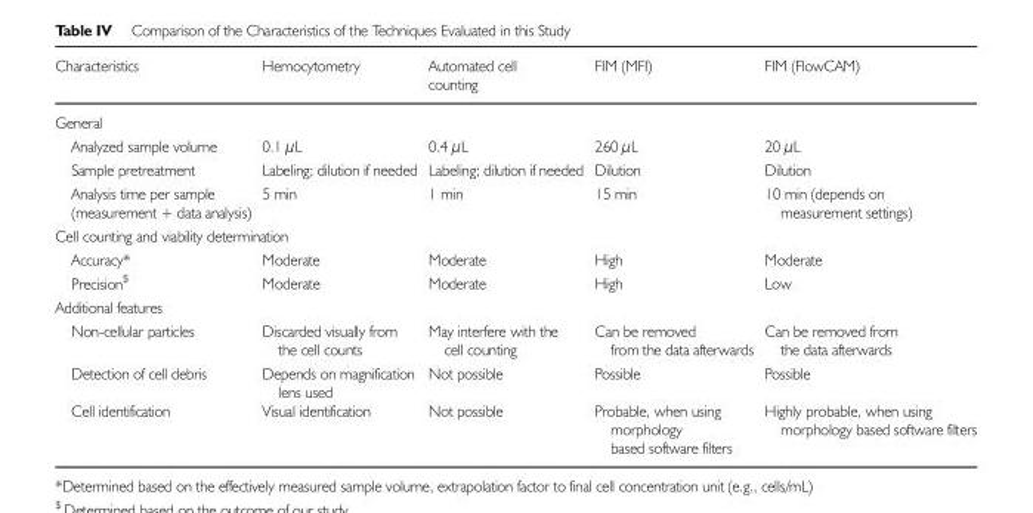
<table><thead><tr><td>Characteristics</td><td>Hemocytometry</td><td>Automated cell counting</td><td>FIM (MFI)</td><td>FIM (FlowCAM)</td></tr></thead><tbody><tr><td colspan="5">General</td></tr><tr><td>Analyzed sample volume</td><td>0.1 μL</td><td>0.4 μL</td><td>260 μL</td><td>20 μL</td></tr><tr><td>Sample pretreatment</td><td>Labeling; dilution if needed</td><td>Labeling; dilution if needed</td><td>Dilution</td><td>Dilution</td></tr><tr><td>Analysis time per sample (measurement + data analysis)</td><td>5 min</td><td>1 min</td><td>15 min</td><td>10 min (depends on measurement settings)</td></tr><tr><td colspan="5">Cell counting and viability determination</td></tr><tr><td>Accuracy*</td><td>Moderate</td><td>Moderate</td><td>High</td><td>Moderate</td></tr><tr><td>Precision<sup>$</sup></td><td>Moderate</td><td>Moderate</td><td>High</td><td>Low</td></tr><tr><td colspan="5">Additional features</td></tr><tr><td>Non-cellular particles</td><td>Discarded visually from the cell counts</td><td>May interfere with the cell counting</td><td>Can be removed from the data afterwards</td><td>Can be removed from the data afterwards</td></tr><tr><td>Detection of cell debris</td><td>Depends on magnification lens used</td><td>Not possible</td><td>Possible</td><td>Possible</td></tr><tr><td>Cell identification</td><td>Visual identification</td><td>Not possible</td><td>Probable, when using morphology based software filters</td><td>Highly probable, when using morphology based software filters</td></tr></tbody></table>